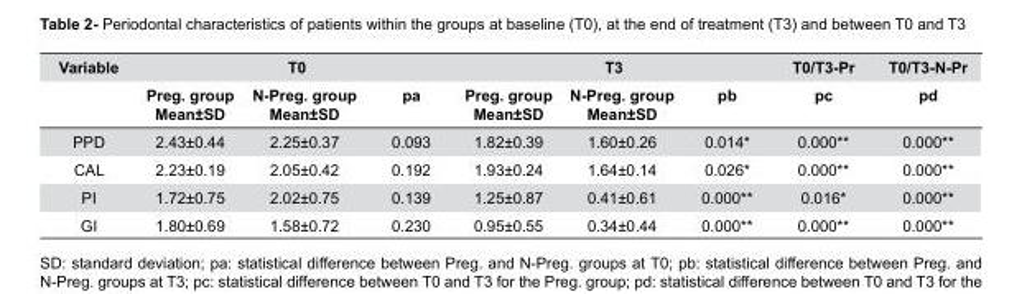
<table><thead><tr><td rowspan="2">Variable</td><td rowspan="2">Preg. group Mean±SD</td><td rowspan="2">T0 N-Preg. group Mean±SD</td><td rowspan="2">pa</td><td rowspan="2">Preg. group Mean±SD</td><td rowspan="2">T3 N-Preg. group Mean±SD</td><td rowspan="2">pb</td><td rowspan="2">T0/T3-Pr pc</td><td rowspan="2">T0/T3-N-Pr pd</td></tr><tr></tr></thead><tbody><tr><td>PPD</td><td>2.43±0.44</td><td>2.25±0.37</td><td>0.093</td><td>1.82±0.39</td><td>1.60±0.26</td><td>0.014*</td><td>0.000**</td><td>0.000**</td></tr><tr><td>CAL</td><td>2.23±0.19</td><td>2.05±0.42</td><td>0.192</td><td>1.93±0.24</td><td>1.64±0.14</td><td>0.026*</td><td>0.000**</td><td>0.000**</td></tr><tr><td>PI</td><td>1.72±0.75</td><td>2.02±0.75</td><td>0.139</td><td>1.25±0.87</td><td>0.41±0.61</td><td>0.000**</td><td>0.016*</td><td>0.000**</td></tr><tr><td>GI</td><td>1.80±0.69</td><td>1.58±0.72</td><td>0.230</td><td>0.95±0.55</td><td>0.34±0.44</td><td>0.000**</td><td>0.000**</td><td>0.000**</td></tr></tbody></table>